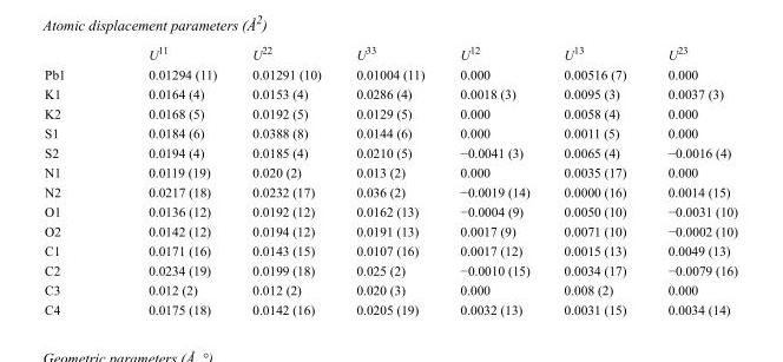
<table><thead><tr><td></td><td>U<sup>11</sup></td><td>U<sup>22</sup></td><td>U<sup>33</sup></td><td>U<sup>12</sup></td><td>U<sup>13</sup></td><td>U<sup>23</sup></td></tr></thead><tbody><tr><td>Pb1</td><td>0.01294 (11)</td><td>0.01291 (10)</td><td>0.01004 (11)</td><td>0.000</td><td>0.00516 (7)</td><td>0.000</td></tr><tr><td>K1</td><td>0.0164 (4)</td><td>0.0153 (4)</td><td>0.0286 (4)</td><td>0.0018 (3)</td><td>0.0095 (3)</td><td>0.0037 (3)</td></tr><tr><td>K2</td><td>0.0168 (5)</td><td>0.0192 (5)</td><td>0.0129 (5)</td><td>0.000</td><td>0.0058 (4)</td><td>0.000</td></tr><tr><td>S1</td><td>0.0184 (6)</td><td>0.0388 (8)</td><td>0.0144 (6)</td><td>0.000</td><td>0.0011 (5)</td><td>0.000</td></tr><tr><td>S2</td><td>0.0194 (4)</td><td>0.0185 (4)</td><td>0.0210 (5)</td><td>−0.0041 (3)</td><td>0.0065 (4)</td><td>−0.0016 (4)</td></tr><tr><td>N1</td><td>0.0119 (19)</td><td>0.020 (2)</td><td>0.013 (2)</td><td>0.000</td><td>0.0035 (17)</td><td>0.000</td></tr><tr><td>N2</td><td>0.0217 (18)</td><td>0.0232 (17)</td><td>0.036 (2)</td><td>−0.0019 (14)</td><td>0.0000 (16)</td><td>0.0014 (15)</td></tr><tr><td>O1</td><td>0.0136 (12)</td><td>0.0192 (12)</td><td>0.0162 (13)</td><td>−0.0004 (9)</td><td>0.0050 (10)</td><td>−0.0031 (10)</td></tr><tr><td>O2</td><td>0.0142 (12)</td><td>0.0194 (12)</td><td>0.0191 (13)</td><td>0.0017 (9)</td><td>0.0071 (10)</td><td>−0.0002 (10)</td></tr><tr><td>C1</td><td>0.0171 (16)</td><td>0.0143 (15)</td><td>0.0107 (16)</td><td>0.0017 (12)</td><td>0.0015 (13)</td><td>0.0049 (13)</td></tr><tr><td>C2</td><td>0.0234 (19)</td><td>0.0199 (18)</td><td>0.025 (2)</td><td>−0.0010 (15)</td><td>0.0034 (17)</td><td>−0.0079 (16)</td></tr><tr><td>C3</td><td>0.012 (2)</td><td>0.012 (2)</td><td>0.020 (3)</td><td>0.000</td><td>0.008 (2)</td><td>0.000</td></tr><tr><td>C4</td><td>0.0175 (18)</td><td>0.0142 (16)</td><td>0.0205 (19)</td><td>0.0032 (13)</td><td>0.0031 (15)</td><td>0.0034 (14)</td></tr></tbody></table>